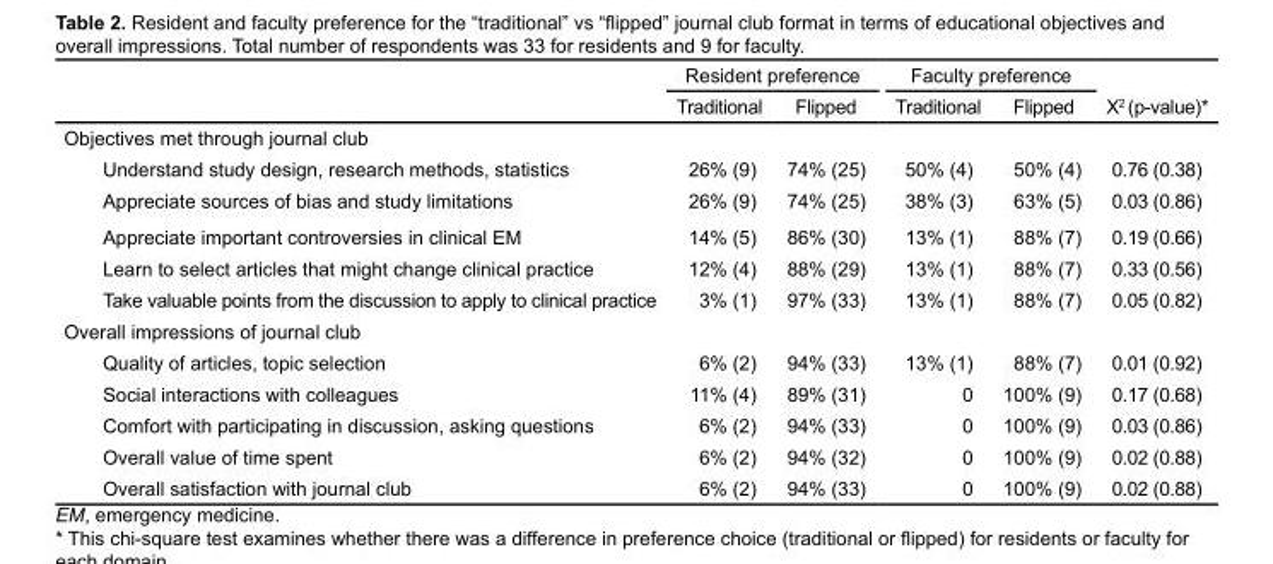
<table><thead><tr><td rowspan="2"></td><td colspan="2">Resident preference</td><td colspan="2">Faculty preference</td><td rowspan="2">X<sup>2</sup> (p-value)*</td></tr><tr><td>Traditional</td><td>Flipped</td><td>Traditional</td><td>Flipped</td></tr></thead><tbody><tr><td colspan="6">Objectives met through journal club</td></tr><tr><td>Understand study design, research methods, statistics</td><td>26% (9)</td><td>74% (25)</td><td>50% (4)</td><td>50% (4)</td><td>0.76 (0.38)</td></tr><tr><td>Appreciate sources of bias and study limitations</td><td>26% (9)</td><td>74% (25)</td><td>38% (3)</td><td>63% (5)</td><td>0.03 (0.86)</td></tr><tr><td>Appreciate important controversies in clinical EM</td><td>14% (5)</td><td>86% (30)</td><td>13% (1)</td><td>88% (7)</td><td>0.19 (0.66)</td></tr><tr><td>Learn to select articles that might change clinical practice</td><td>12% (4)</td><td>88% (29)</td><td>13% (1)</td><td>88% (7)</td><td>0.33 (0.56)</td></tr><tr><td>Take valuable points from the discussion to apply to clinical practice</td><td>3% (1)</td><td>97% (33)</td><td>13% (1)</td><td>88% (7)</td><td>0.05 (0.82)</td></tr><tr><td colspan="6">Overall impressions of journal club</td></tr><tr><td>Quality of articles, topic selection</td><td>6% (2)</td><td>94% (33)</td><td>13% (1)</td><td>88% (7)</td><td>0.01 (0.92)</td></tr><tr><td>Social interactions with colleagues</td><td>11% (4)</td><td>89% (31)</td><td>0</td><td>100% (9)</td><td>0.17 (0.68)</td></tr><tr><td>Comfort with participating in discussion, asking questions</td><td>6% (2)</td><td>94% (33)</td><td>0</td><td>100% (9)</td><td>0.03 (0.86)</td></tr><tr><td>Overall value of time spent</td><td>6% (2)</td><td>94% (32)</td><td>0</td><td>100% (9)</td><td>0.02 (0.88)</td></tr><tr><td>Overall satisfaction with journal club</td><td>6% (2)</td><td>94% (33)</td><td>0</td><td>100% (9)</td><td>0.02 (0.88)</td></tr></tbody></table>